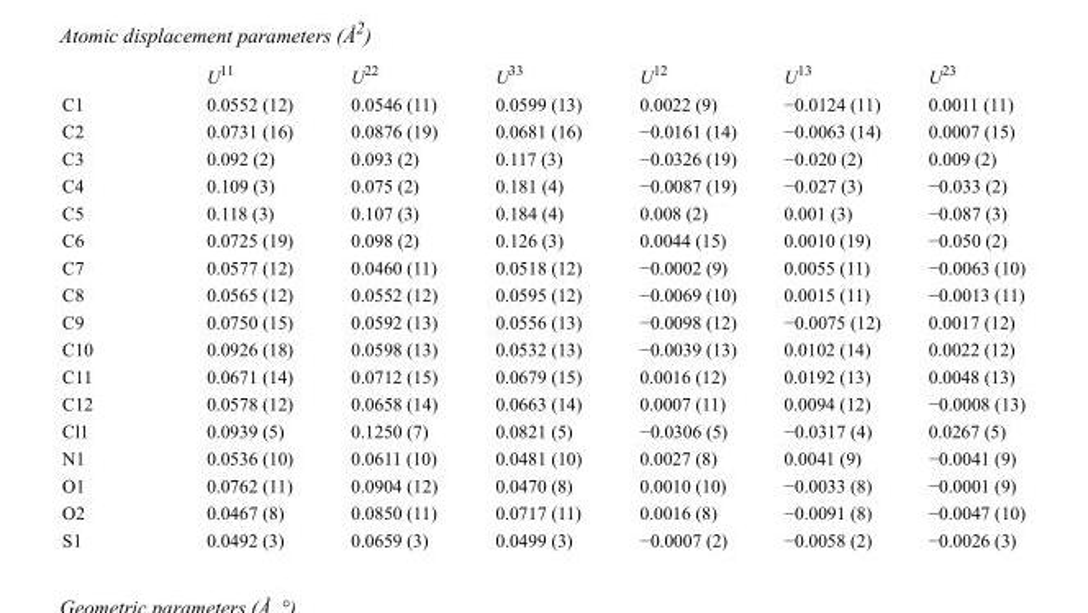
<table><thead><tr><td></td><td>U<sup>11</sup></td><td>U<sup>22</sup></td><td>U<sup>33</sup></td><td>U<sup>12</sup></td><td>U<sup>13</sup></td><td>U<sup>23</sup></td></tr></thead><tbody><tr><td>C1</td><td>0.0552 (12)</td><td>0.0546 (11)</td><td>0.0599 (13)</td><td>0.0022 (9)</td><td>−0.0124 (11)</td><td>0.0011 (11)</td></tr><tr><td>C2</td><td>0.0731 (16)</td><td>0.0876 (19)</td><td>0.0681 (16)</td><td>−0.0161 (14)</td><td>−0.0063 (14)</td><td>0.0007 (15)</td></tr><tr><td>C3</td><td>0.092 (2)</td><td>0.093 (2)</td><td>0.117 (3)</td><td>−0.0326 (19)</td><td>−0.020 (2)</td><td>0.009 (2)</td></tr><tr><td>C4</td><td>0.109 (3)</td><td>0.075 (2)</td><td>0.181 (4)</td><td>−0.0087 (19)</td><td>−0.027 (3)</td><td>−0.033 (2)</td></tr><tr><td>C5</td><td>0.118 (3)</td><td>0.107 (3)</td><td>0.184 (4)</td><td>0.008 (2)</td><td>0.001 (3)</td><td>−0.087 (3)</td></tr><tr><td>C6</td><td>0.0725 (19)</td><td>0.098 (2)</td><td>0.126 (3)</td><td>0.0044 (15)</td><td>0.0010 (19)</td><td>−0.050 (2)</td></tr><tr><td>C7</td><td>0.0577 (12)</td><td>0.0460 (11)</td><td>0.0518 (12)</td><td>−0.0002 (9)</td><td>0.0055 (11)</td><td>−0.0063 (10)</td></tr><tr><td>C8</td><td>0.0565 (12)</td><td>0.0552 (12)</td><td>0.0595 (12)</td><td>−0.0069 (10)</td><td>0.0015 (11)</td><td>−0.0013 (11)</td></tr><tr><td>C9</td><td>0.0750 (15)</td><td>0.0592 (13)</td><td>0.0556 (13)</td><td>−0.0098 (12)</td><td>−0.0075 (12)</td><td>0.0017 (12)</td></tr><tr><td>C10</td><td>0.0926 (18)</td><td>0.0598 (13)</td><td>0.0532 (13)</td><td>−0.0039 (13)</td><td>0.0102 (14)</td><td>0.0022 (12)</td></tr><tr><td>C11</td><td>0.0671 (14)</td><td>0.0712 (15)</td><td>0.0679 (15)</td><td>0.0016 (12)</td><td>0.0192 (13)</td><td>0.0048 (13)</td></tr><tr><td>C12</td><td>0.0578 (12)</td><td>0.0658 (14)</td><td>0.0663 (14)</td><td>0.0007 (11)</td><td>0.0094 (12)</td><td>−0.0008 (13)</td></tr><tr><td>Cl1</td><td>0.0939 (5)</td><td>0.1250 (7)</td><td>0.0821 (5)</td><td>−0.0306 (5)</td><td>−0.0317 (4)</td><td>0.0267 (5)</td></tr><tr><td>N1</td><td>0.0536 (10)</td><td>0.0611 (10)</td><td>0.0481 (10)</td><td>0.0027 (8)</td><td>0.0041 (9)</td><td>−0.0041 (9)</td></tr><tr><td>O1</td><td>0.0762 (11)</td><td>0.0904 (12)</td><td>0.0470 (8)</td><td>0.0010 (10)</td><td>−0.0033 (8)</td><td>−0.0001 (9)</td></tr><tr><td>O2</td><td>0.0467 (8)</td><td>0.0850 (11)</td><td>0.0717 (11)</td><td>0.0016 (8)</td><td>−0.0091 (8)</td><td>−0.0047 (10)</td></tr><tr><td>S1</td><td>0.0492 (3)</td><td>0.0659 (3)</td><td>0.0499 (3)</td><td>−0.0007 (2)</td><td>−0.0058 (2)</td><td>−0.0026 (3)</td></tr></tbody></table>